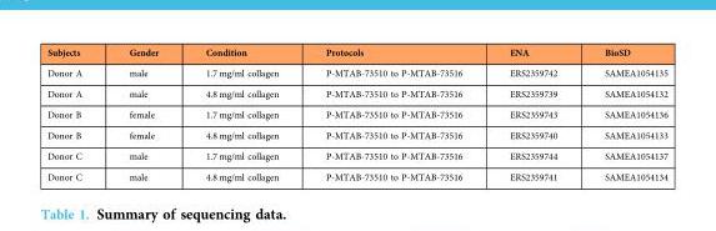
<table><thead><tr><td>Subjects</td><td>Gender</td><td>Condition</td><td>Protocols</td><td>ENA</td><td>BioSD</td></tr></thead><tbody><tr><td>Donor A</td><td>male</td><td>1.7 mg/ml collagen</td><td>P-MTAB-73510 to P-MTAB-73516</td><td>ERS2359742</td><td>SAMEA1054135</td></tr><tr><td>Donor A</td><td>male</td><td>4.8 mg/ml collagen</td><td>P-MTAB-73510 to P-MTAB-73516</td><td>ERS2359739</td><td>SAMEA1054132</td></tr><tr><td>Donor B</td><td>female</td><td>1.7 mg/ml collagen</td><td>P-MTAB-73510 to P-MTAB-73516</td><td>ERS2359743</td><td>SAMEA1054136</td></tr><tr><td>Donor B</td><td>female</td><td>4.8 mg/ml collagen</td><td>P-MTAB-73510 to P-MTAB-73516</td><td>ERS2359740</td><td>SAMEA1054133</td></tr><tr><td>Donor C</td><td>male</td><td>1.7 mg/ml collagen</td><td>P-MTAB-73510 to P-MTAB-73516</td><td>ERS2359744</td><td>SAMEA1054137</td></tr><tr><td>Donor C</td><td>male</td><td>4.8 mg/ml collagen</td><td>P-MTAB-73510 to P-MTAB-73516</td><td>ERS2359741</td><td>SAMEA1054134</td></tr></tbody></table>